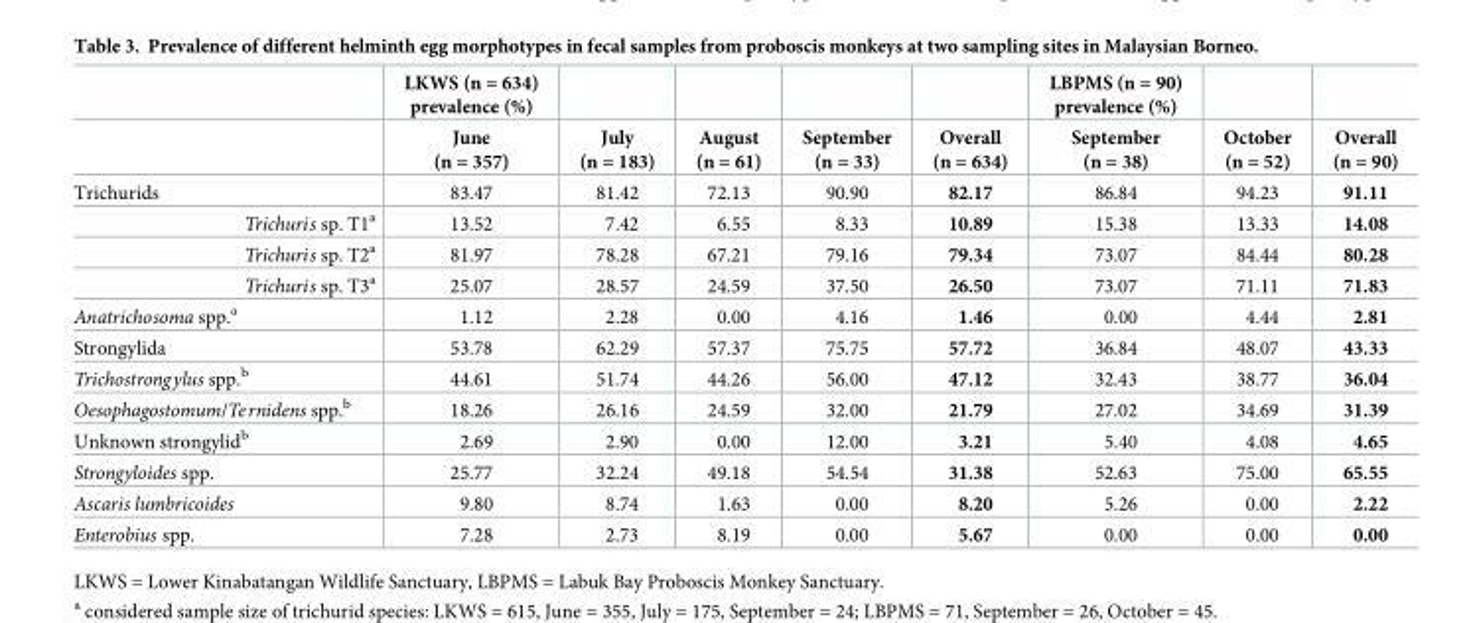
<table><thead><tr><td rowspan="2"></td><td rowspan="2">LKWS (n = 634) prevalence (%) June (n = 357)</td><td rowspan="2">July (n = 183)</td><td rowspan="2">August (n = 61)</td><td rowspan="2">September (n = 33)</td><td rowspan="2">Overall (n = 634)</td><td rowspan="2">LBPMS (n = 90) prevalence (%) September (n = 38)</td><td rowspan="2">October (n = 52)</td><td rowspan="2">Overall (n = 90)</td></tr><tr></tr></thead><tbody><tr><td>Trichurids</td><td>83.47</td><td>81.42</td><td>72.13</td><td>90.90</td><td>82.17</td><td>86.84</td><td>94.23</td><td>91.11</td></tr><tr><td>Trichuris sp. T1<sup>a</sup></td><td>13.52</td><td>7.42</td><td>6.55</td><td>8.33</td><td>10.89</td><td>15.38</td><td>13.33</td><td>14.08</td></tr><tr><td>Trichuris sp. T2<sup>a</sup></td><td>81.97</td><td>78.28</td><td>67.21</td><td>79.16</td><td>79.34</td><td>73.07</td><td>84.44</td><td>80.28</td></tr><tr><td>Trichuris sp. T3<sup>a</sup></td><td>25.07</td><td>28.57</td><td>24.59</td><td>37.50</td><td>26.50</td><td>73.07</td><td>71.11</td><td>71.83</td></tr><tr><td>Anatrichosoma spp.<sup>a</sup></td><td>1.12</td><td>2.28</td><td>0.00</td><td>4.16</td><td>1.46</td><td>0.00</td><td>4.44</td><td>2.81</td></tr><tr><td>Strongylida</td><td>53.78</td><td>62.29</td><td>57.37</td><td>75.75</td><td>57.72</td><td>36.84</td><td>48.07</td><td>43.33</td></tr><tr><td>Trichostrongylus spp.<sup>b</sup></td><td>44.61</td><td>51.74</td><td>44.26</td><td>56.00</td><td>47.12</td><td>32.43</td><td>38.77</td><td>36.04</td></tr><tr><td>Oesophagostomum/Ternidens spp.<sup>b</sup></td><td>18.26</td><td>26.16</td><td>24.59</td><td>32.00</td><td>21.79</td><td>27.02</td><td>34.69</td><td>31.39</td></tr><tr><td>Unknown strongylid<sup>b</sup></td><td>2.69</td><td>2.90</td><td>0.00</td><td>12.00</td><td>3.21</td><td>5.40</td><td>4.08</td><td>4.65</td></tr><tr><td>Strongyloides spp.</td><td>25.77</td><td>32.24</td><td>49.18</td><td>54.54</td><td>31.38</td><td>52.63</td><td>75.00</td><td>65.55</td></tr><tr><td>Ascaris lumbricoides</td><td>9.80</td><td>8.74</td><td>1.63</td><td>0.00</td><td>8.20</td><td>5.26</td><td>0.00</td><td>2.22</td></tr><tr><td>Enterobius spp.</td><td>7.28</td><td>2.73</td><td>8.19</td><td>0.00</td><td>5.67</td><td>0.00</td><td>0.00</td><td>0.00</td></tr></tbody></table>